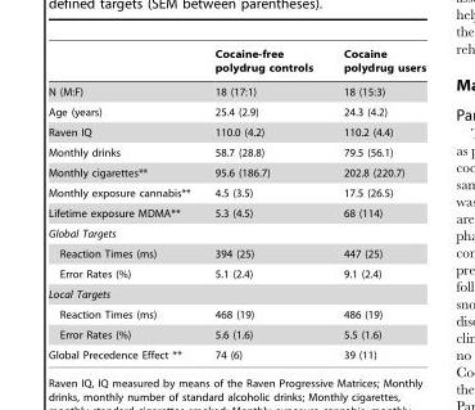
<table><thead><tr><td></td><td>Cocaine-free polydrug controls</td><td>Cocaine polydrug users</td></tr></thead><tbody><tr><td>N (M:F)</td><td>18 (17:1)</td><td>18 (15:3)</td></tr><tr><td>Age (years)</td><td>25.4 (2.9)</td><td>24.3 (4.2)</td></tr><tr><td>Raven IQ</td><td>110.0 (4.2)</td><td>110.2 (4.4)</td></tr><tr><td>Monthly drinks</td><td>58.7 (28.8)</td><td>79.5 (56.1)</td></tr><tr><td>Monthly cigarettes**</td><td>95.6 (186.7)</td><td>202.8 (220.7)</td></tr><tr><td>Monthly exposure cannabis**</td><td>4.5 (3.5)</td><td>17.5 (26.5)</td></tr><tr><td>Lifetime exposure MDMA**</td><td>5.3 (4.5)</td><td>68 (114)</td></tr><tr><td colspan="3">Global Targets</td></tr><tr><td>Reaction Times (ms)</td><td>394 (25)</td><td>447 (25)</td></tr><tr><td>Error Rates (%)</td><td>5.1 (2.4)</td><td>9.1 (2.4)</td></tr><tr><td colspan="3">Local Targets</td></tr><tr><td>Reaction Times (ms)</td><td>468 (19)</td><td>486 (19)</td></tr><tr><td>Error Rates (%)</td><td>5.6 (1.6)</td><td>5.5 (1.6)</td></tr><tr><td>Global Precedence Effect **</td><td>74 (6)</td><td>39 (11)</td></tr></tbody></table>